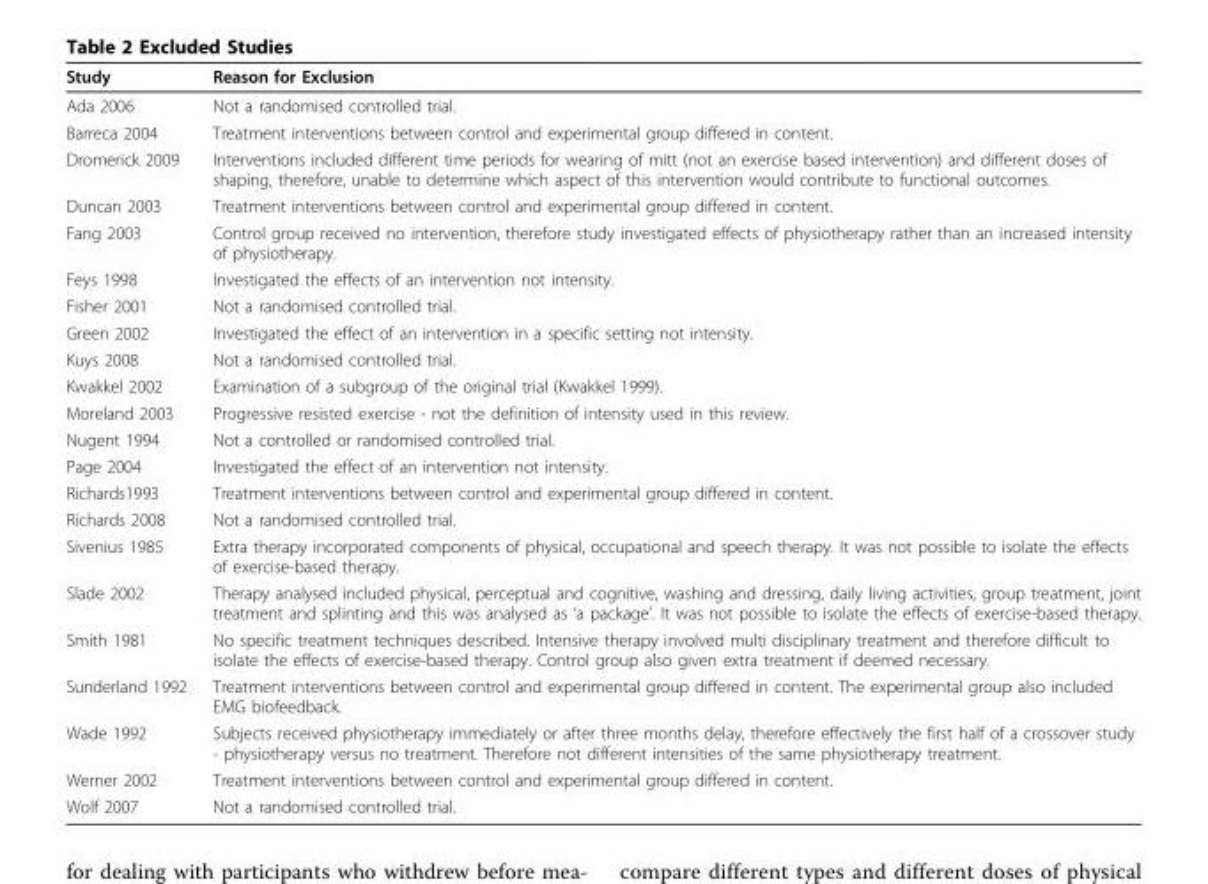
<table><thead><tr><td>Study</td><td>Reason for Exclusion</td></tr></thead><tbody><tr><td>Ada 2006</td><td>Not a randomised controlled trial.</td></tr><tr><td>Barreca 2004</td><td>Treatment interventions between control and experimental group differed in content.</td></tr><tr><td>Dromerick 2009</td><td>Interventions included different time periods for wearing of mitt (not an exercise based intervention) and different doses of shaping, therefore, unable to determine which aspect of this intervention would contribute to functional outcomes.</td></tr><tr><td>Duncan 2003</td><td>Treatment interventions between control and experimental group differed in content.</td></tr><tr><td>Fang 2003</td><td>Control group received no intervention, therefore study investigated effects of physiotherapy rather than an increased intensity of physiotherapy.</td></tr><tr><td>Feys 1998</td><td>Investigated the effects of an intervention not intensity.</td></tr><tr><td>Fisher 2001</td><td>Not a randomised controlled trial.</td></tr><tr><td>Green 2002</td><td>Investigated the effect of an intervention in a specific setting not intensity.</td></tr><tr><td>Kuys 2008</td><td>Not a randomised controlled trial.</td></tr><tr><td>Kwakkel 2002</td><td>Examination of a subgroup of the original trial (Kwakkel 1999).</td></tr><tr><td>Moreland 2003</td><td>Progressive resisted exercise - not the definition of intensity used in this review.</td></tr><tr><td>Nugent 1994</td><td>Not a controlled or randomised controlled trial.</td></tr><tr><td>Page 2004</td><td>Investigated the effect of an intervention not intensity.</td></tr><tr><td>Richards1993</td><td>Treatment interventions between control and experimental group differed in content.</td></tr><tr><td>Richards 2008</td><td>Not a randomised controlled trial.</td></tr><tr><td>Sivenius 1985</td><td>Extra therapy incorporated components of physical, occupational and speech therapy. It was not possible to isolate the effects of exercise-based therapy.</td></tr><tr><td>Slade 2002</td><td>Therapy analysed included physical, perceptual and cognitive, washing and dressing, daily living activities, group treatment, joint treatment and splinting and this was analysed as ‘a package’. It was not possible to isolate the effects of exercise-based therapy.</td></tr><tr><td>Smith 1981</td><td>No specific treatment techniques described. Intensive therapy involved multi disciplinary treatment and therefore difficult to isolate the effects of exercise-based therapy. Control group also given extra treatment if deemed necessary.</td></tr><tr><td>Sunderland 1992</td><td>Treatment interventions between control and experimental group differed in content. The experimental group also included EMG biofeedback.</td></tr><tr><td>Wade 1992</td><td>Subjects received physiotherapy immediately or after three months delay, therefore effectively the first half of a crossover study - physiotherapy versus no treatment. Therefore not different intensities of the same physiotherapy treatment.</td></tr><tr><td>Werner 2002</td><td>Treatment interventions between control and experimental group differed in content.</td></tr><tr><td>Wolf 2007</td><td>Not a randomised controlled trial.</td></tr></tbody></table>